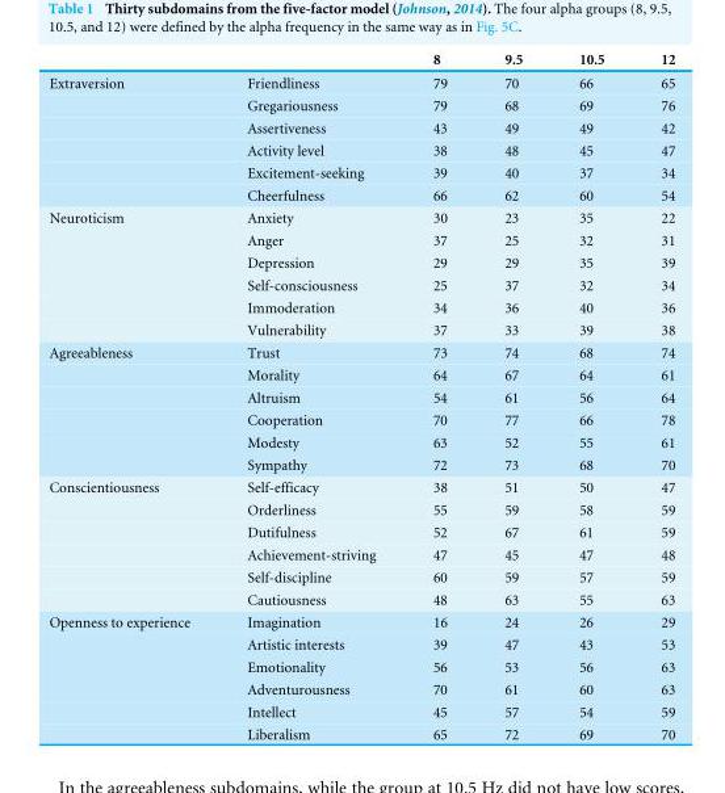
<table><thead><tr><td></td><td></td><td>8</td><td>9.5</td><td>10.5</td><td>12</td></tr></thead><tbody><tr><td rowspan="6">Extraversion</td><td>Friendliness</td><td>79</td><td>70</td><td>66</td><td>65</td></tr><tr><td>Gregariousness</td><td>79</td><td>68</td><td>69</td><td>76</td></tr><tr><td>Assertiveness</td><td>43</td><td>49</td><td>49</td><td>42</td></tr><tr><td>Activity level</td><td>38</td><td>48</td><td>45</td><td>47</td></tr><tr><td>Excitement-seeking</td><td>39</td><td>40</td><td>37</td><td>34</td></tr><tr><td>Cheerfulness</td><td>66</td><td>62</td><td>60</td><td>54</td></tr><tr><td rowspan="6">Neuroticism</td><td>Anxiety</td><td>30</td><td>23</td><td>35</td><td>22</td></tr><tr><td>Anger</td><td>37</td><td>25</td><td>32</td><td>31</td></tr><tr><td>Depression</td><td>29</td><td>29</td><td>35</td><td>39</td></tr><tr><td>Self-consciousness</td><td>25</td><td>37</td><td>32</td><td>34</td></tr><tr><td>Immoderation</td><td>34</td><td>36</td><td>40</td><td>36</td></tr><tr><td>Vulnerability</td><td>37</td><td>33</td><td>39</td><td>38</td></tr><tr><td rowspan="6">Agreeableness</td><td>Trust</td><td>73</td><td>74</td><td>68</td><td>74</td></tr><tr><td>Morality</td><td>64</td><td>67</td><td>64</td><td>61</td></tr><tr><td>Altruism</td><td>54</td><td>61</td><td>56</td><td>64</td></tr><tr><td>Cooperation</td><td>70</td><td>77</td><td>66</td><td>78</td></tr><tr><td>Modesty</td><td>63</td><td>52</td><td>55</td><td>61</td></tr><tr><td>Sympathy</td><td>72</td><td>73</td><td>68</td><td>70</td></tr><tr><td rowspan="6">Conscientiousness</td><td>Self-efficacy</td><td>38</td><td>51</td><td>50</td><td>47</td></tr><tr><td>Orderliness</td><td>55</td><td>59</td><td>58</td><td>59</td></tr><tr><td>Dutifulness</td><td>52</td><td>67</td><td>61</td><td>59</td></tr><tr><td>Achievement-striving</td><td>47</td><td>45</td><td>47</td><td>48</td></tr><tr><td>Self-discipline</td><td>60</td><td>59</td><td>57</td><td>59</td></tr><tr><td>Cautiousness</td><td>48</td><td>63</td><td>55</td><td>63</td></tr><tr><td rowspan="6">Openness to experience</td><td>Imagination</td><td>16</td><td>24</td><td>26</td><td>29</td></tr><tr><td>Artistic interests</td><td>39</td><td>47</td><td>43</td><td>53</td></tr><tr><td>Emotionality</td><td>56</td><td>53</td><td>56</td><td>63</td></tr><tr><td>Adventurousness</td><td>70</td><td>61</td><td>60</td><td>63</td></tr><tr><td>Intellect</td><td>45</td><td>57</td><td>54</td><td>59</td></tr><tr><td>Liberalism</td><td>65</td><td>72</td><td>69</td><td>70</td></tr></tbody></table>